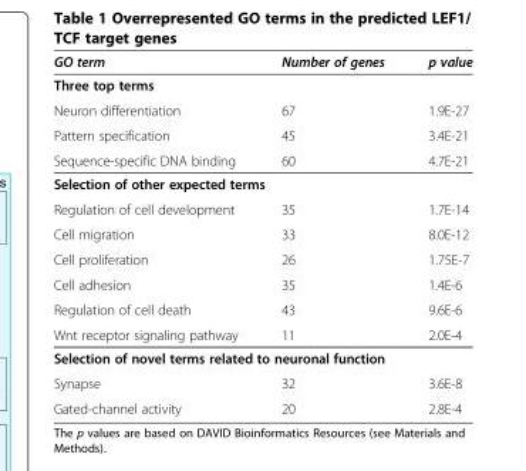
<table><thead><tr><td>GO term</td><td>Number of genes</td><td>p value</td></tr></thead><tbody><tr><td colspan="3">Three top terms</td></tr><tr><td>Neuron differentiation</td><td>67</td><td>1.9E-27</td></tr><tr><td>Pattern specification</td><td>45</td><td>3.4E-21</td></tr><tr><td>Sequence-specific DNA binding</td><td>60</td><td>4.7E-21</td></tr><tr><td colspan="3">Selection of other expected terms</td></tr><tr><td>Regulation of cell development</td><td>35</td><td>1.7E-14</td></tr><tr><td>Cell migration</td><td>33</td><td>8.0E-12</td></tr><tr><td>Cell proliferation</td><td>26</td><td>1.75E-7</td></tr><tr><td>Cell adhesion</td><td>35</td><td>1.4E-6</td></tr><tr><td>Regulation of cell death</td><td>43</td><td>9.6E-6</td></tr><tr><td>Wnt receptor signaling pathway</td><td>11</td><td>2.0E-4</td></tr><tr><td colspan="3">Selection of novel terms related to neuronal function</td></tr><tr><td>Synapse</td><td>32</td><td>3.6E-8</td></tr><tr><td>Gated-channel activity</td><td>20</td><td>2.8E-4</td></tr></tbody></table>